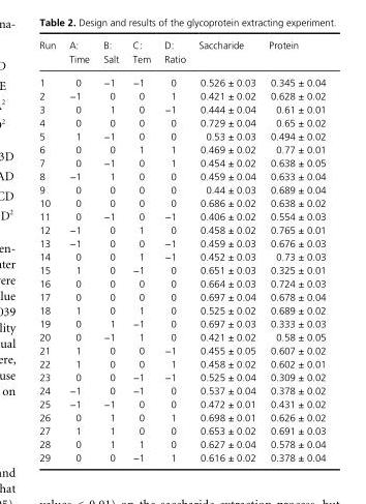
<table><thead><tr><td>Run</td><td>A: Time</td><td>B: Salt</td><td>C: Tem</td><td>D: Ratio</td><td>Saccharide</td><td>Protein</td></tr></thead><tbody><tr><td>1</td><td>0</td><td>−1</td><td>−1</td><td>0</td><td>0.526 ± 0.03</td><td>0.345 ± 0.04</td></tr><tr><td>2</td><td>−1</td><td>0</td><td>0</td><td>1</td><td>0.421 ± 0.02</td><td>0.628 ± 0.02</td></tr><tr><td>3</td><td>0</td><td>1</td><td>0</td><td>−1</td><td>0.444 ± 0.04</td><td>0.61 ± 0.01</td></tr><tr><td>4</td><td>0</td><td>0</td><td>0</td><td>0</td><td>0.729 ± 0.04</td><td>0.65 ± 0.02</td></tr><tr><td>5</td><td>1</td><td>−1</td><td>0</td><td>0</td><td>0.53 ± 0.03</td><td>0.494 ± 0.02</td></tr><tr><td>6</td><td>0</td><td>0</td><td>1</td><td>1</td><td>0.469 ± 0.02</td><td>0.77 ± 0.01</td></tr><tr><td>7</td><td>0</td><td>−1</td><td>0</td><td>1</td><td>0.454 ± 0.02</td><td>0.638 ± 0.05</td></tr><tr><td>8</td><td>−1</td><td>1</td><td>0</td><td>0</td><td>0.459 ± 0.04</td><td>0.633 ± 0.04</td></tr><tr><td>9</td><td>0</td><td>0</td><td>0</td><td>0</td><td>0.44 ± 0.03</td><td>0.689 ± 0.04</td></tr><tr><td>10</td><td>0</td><td>0</td><td>0</td><td>0</td><td>0.686 ± 0.02</td><td>0.638 ± 0.02</td></tr><tr><td>11</td><td>0</td><td>−1</td><td>0</td><td>−1</td><td>0.406 ± 0.02</td><td>0.554 ± 0.03</td></tr><tr><td>12</td><td>−1</td><td>0</td><td>1</td><td>0</td><td>0.458 ± 0.02</td><td>0.765 ± 0.01</td></tr><tr><td>13</td><td>−1</td><td>0</td><td>0</td><td>−1</td><td>0.459 ± 0.03</td><td>0.676 ± 0.03</td></tr><tr><td>14</td><td>0</td><td>0</td><td>1</td><td>−1</td><td>0.452 ± 0.03</td><td>0.73 ± 0.03</td></tr><tr><td>15</td><td>1</td><td>0</td><td>−1</td><td>0</td><td>0.651 ± 0.03</td><td>0.325 ± 0.01</td></tr><tr><td>16</td><td>0</td><td>0</td><td>0</td><td>0</td><td>0.664 ± 0.03</td><td>0.724 ± 0.03</td></tr><tr><td>17</td><td>0</td><td>0</td><td>0</td><td>0</td><td>0.697 ± 0.04</td><td>0.678 ± 0.04</td></tr><tr><td>18</td><td>1</td><td>0</td><td>1</td><td>0</td><td>0.525 ± 0.02</td><td>0.689 ± 0.02</td></tr><tr><td>19</td><td>0</td><td>1</td><td>−1</td><td>0</td><td>0.697 ± 0.03</td><td>0.333 ± 0.03</td></tr><tr><td>20</td><td>0</td><td>−1</td><td>1</td><td>0</td><td>0.421 ± 0.02</td><td>0.58 ± 0.05</td></tr><tr><td>21</td><td>1</td><td>0</td><td>0</td><td>−1</td><td>0.455 ± 0.05</td><td>0.607 ± 0.02</td></tr><tr><td>22</td><td>1</td><td>0</td><td>0</td><td>1</td><td>0.458 ± 0.02</td><td>0.602 ± 0.01</td></tr><tr><td>23</td><td>0</td><td>0</td><td>−1</td><td>−1</td><td>0.525 ± 0.04</td><td>0.309 ± 0.02</td></tr><tr><td>24</td><td>−1</td><td>0</td><td>−1</td><td>0</td><td>0.537 ± 0.04</td><td>0.378 ± 0.02</td></tr><tr><td>25</td><td>−1</td><td>−1</td><td>0</td><td>0</td><td>0.472 ± 0.01</td><td>0.431 ± 0.02</td></tr><tr><td>26</td><td>0</td><td>1</td><td>0</td><td>1</td><td>0.698 ± 0.01</td><td>0.626 ± 0.02</td></tr><tr><td>27</td><td>1</td><td>1</td><td>0</td><td>0</td><td>0.653 ± 0.02</td><td>0.691 ± 0.03</td></tr><tr><td>28</td><td>0</td><td>1</td><td>1</td><td>0</td><td>0.627 ± 0.04</td><td>0.578 ± 0.04</td></tr><tr><td>29</td><td>0</td><td>0</td><td>−1</td><td>1</td><td>0.616 ± 0.02</td><td>0.378 ± 0.04</td></tr></tbody></table>